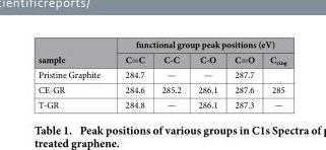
<table><thead><tr><td rowspan="2">sample</td><td colspan="5">functional group peak positions (eV)</td></tr><tr><td>C=C</td><td>C-C</td><td>C-O</td><td>C=O</td><td>C<sub>ring</sub></td></tr></thead><tbody><tr><td>Pristine Graphite</td><td>284.7</td><td>—</td><td>—</td><td>287.7</td><td></td></tr><tr><td>CE-GR</td><td>284.6</td><td>285.2</td><td>286.1</td><td>287.6</td><td>285</td></tr><tr><td>T-GR</td><td>284.8</td><td>—</td><td>286.1</td><td>287.3</td><td>—</td></tr></tbody></table>